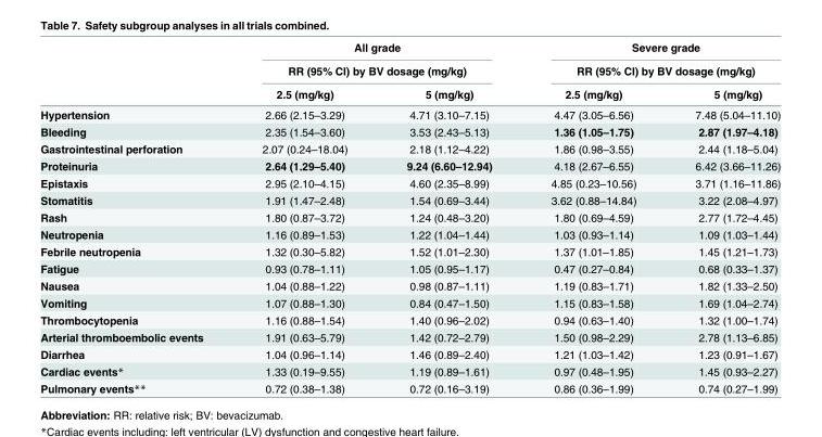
<table><thead><tr><td rowspan="3"></td><td rowspan="2" colspan="2">All grade RR (95% CI) by BV dosage (mg/kg)</td><td rowspan="2" colspan="2">Severe grade RR (95% CI) by BV dosage (mg/kg)</td></tr><tr></tr><tr><td>2.5 (mg/kg)</td><td>5 (mg/kg)</td><td>2.5 (mg/kg)</td><td>5 (mg/kg)</td></tr></thead><tbody><tr><td>Hypertension</td><td>2.66 (2.15–3.29)</td><td>4.71 (3.10–7.15)</td><td>4.47 (3.05–6.56)</td><td>7.48 (5.04–11.10)</td></tr><tr><td>Bleeding</td><td>2.35 (1.54–3.60)</td><td>3.53 (2.43–5.13)</td><td>1.36 (1.05–1.75)</td><td>2.87 (1.97–4.18)</td></tr><tr><td>Gastrointestinal perforation</td><td>2.07 (0.24–18.04)</td><td>2.18 (1.12–4.22)</td><td>1.86 (0.98–3.55)</td><td>2.44 (1.18–5.04)</td></tr><tr><td>Proteinuria</td><td>2.64 (1.29–5.40)</td><td>9.24 (6.60–12.94)</td><td>4.18 (2.67–6.55)</td><td>6.42 (3.66–11.26)</td></tr><tr><td>Epistaxis</td><td>2.95 (2.10–4.15)</td><td>4.60 (2.35–8.99)</td><td>4.85 (0.23–10.56)</td><td>3.71 (1.16–11.86)</td></tr><tr><td>Stomatitis</td><td>1.91 (1.47–2.48)</td><td>1.54 (0.69–3.44)</td><td>3.62 (0.88–14.84)</td><td>3.22 (2.08–4.97)</td></tr><tr><td>Rash</td><td>1.80 (0.87–3.72)</td><td>1.24 (0.48–3.20)</td><td>1.80 (0.69–4.59)</td><td>2.77 (1.72–4.45)</td></tr><tr><td>Neutropenia</td><td>1.16 (0.89–1.53)</td><td>1.22 (1.04–1.44)</td><td>1.03 (0.93–1.14)</td><td>1.09 (1.03–1.44)</td></tr><tr><td>Febrile neutropenia</td><td>1.32 (0.30–5.82)</td><td>1.52 (1.01–2.30)</td><td>1.37 (1.01–1.85)</td><td>1.45 (1.21–1.73)</td></tr><tr><td>Fatigue</td><td>0.93 (0.78–1.11)</td><td>1.05 (0.95–1.17)</td><td>0.47 (0.27–0.84)</td><td>0.68 (0.33–1.37)</td></tr><tr><td>Nausea</td><td>1.04 (0.88–1.22)</td><td>0.98 (0.87–1.11)</td><td>1.19 (0.83–1.71)</td><td>1.82 (1.33–2.50)</td></tr><tr><td>Vomiting</td><td>1.07 (0.88–1.30)</td><td>0.84 (0.47–1.50)</td><td>1.15 (0.83–1.58)</td><td>1.69 (1.04–2.74)</td></tr><tr><td>Thrombocytopenia</td><td>1.16 (0.88–1.54)</td><td>1.40 (0.96–2.02)</td><td>0.94 (0.63–1.40)</td><td>1.32 (1.00–1.74)</td></tr><tr><td>Arterial thromboembolic events</td><td>1.91 (0.63–5.79)</td><td>1.42 (0.72–2.79)</td><td>1.50 (0.98–2.29)</td><td>2.78 (1.13–6.85)</td></tr><tr><td>Diarrhea</td><td>1.04 (0.96–1.14)</td><td>1.46 (0.89–2.40)</td><td>1.21 (1.03–1.42)</td><td>1.23 (0.91–1.67)</td></tr><tr><td>Cardiac events*</td><td>1.33 (0.19–9.55)</td><td>1.19 (0.89–1.61)</td><td>0.97 (0.48–1.95)</td><td>1.45 (0.93–2.27)</td></tr><tr><td>Pulmonary events**</td><td>0.72 (0.38–1.38)</td><td>0.72 (0.16–3.19)</td><td>0.86 (0.36–1.99)</td><td>0.74 (0.27–1.99)</td></tr></tbody></table>